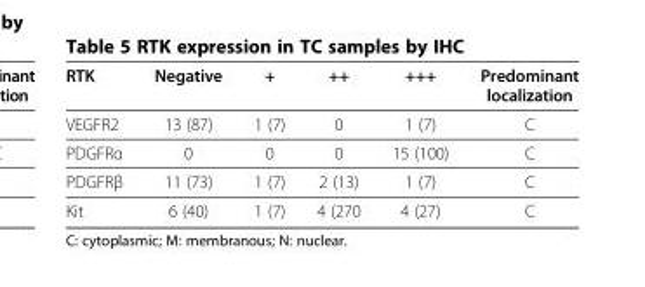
<table><thead><tr><td>RTK</td><td>Negative</td><td>+</td><td>++</td><td>+++</td><td>Predominant localization</td></tr></thead><tbody><tr><td>VEGFR2</td><td>13 (87)</td><td>1 (7)</td><td>0</td><td>1 (7)</td><td>C</td></tr><tr><td>PDGFRα</td><td>0</td><td>0</td><td>0</td><td>15 (100)</td><td>C</td></tr><tr><td>PDGFRβ</td><td>11 (73)</td><td>1 (7)</td><td>2 (13)</td><td>1 (7)</td><td>C</td></tr><tr><td>Kit</td><td>6 (40)</td><td>1 (7)</td><td>4 (270</td><td>4 (27)</td><td>C</td></tr></tbody></table>